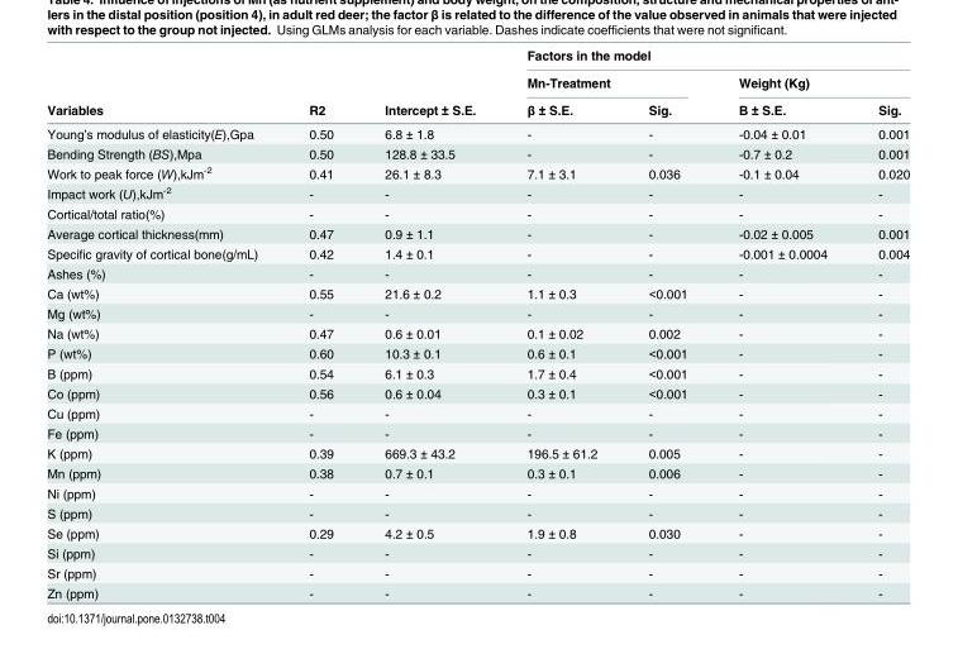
<table><thead><tr><td rowspan="3">Variables</td><td rowspan="3">R2</td><td rowspan="3">Intercept ± S.E.</td><td colspan="4">Factors in the model</td></tr><tr><td colspan="2">Mn-Treatment</td><td colspan="2">Weight (Kg)</td></tr><tr><td>β ± S.E.</td><td>Sig.</td><td>Β ± S.E.</td><td>Sig.</td></tr></thead><tbody><tr><td>Young’s modulus of elasticity(E),Gpa</td><td>0.50</td><td>6.8 ± 1.8</td><td>-</td><td>-</td><td>-0.04 ± 0.01</td><td>0.001</td></tr><tr><td>Bending Strength (BS),Mpa</td><td>0.50</td><td>128.8 ± 33.5</td><td>-</td><td>-</td><td>-0.7 ± 0.2</td><td>0.001</td></tr><tr><td>Work to peak force (W),kJm<sup>-2</sup></td><td>0.41</td><td>26.1 ± 8.3</td><td>7.1 ± 3.1</td><td>0.036</td><td>-0.1 ± 0.04</td><td>0.020</td></tr><tr><td>Impact work (U),kJm<sup>-2</sup></td><td>-</td><td>-</td><td>-</td><td>-</td><td>-</td><td>-</td></tr><tr><td>Cortical/total ratio(%)</td><td>-</td><td>-</td><td>-</td><td>-</td><td>-</td><td>-</td></tr><tr><td>Average cortical thickness(mm)</td><td>0.47</td><td>0.9 ± 1.1</td><td>-</td><td>-</td><td>-0.02 ± 0.005</td><td>0.001</td></tr><tr><td>Specific gravity of cortical bone(g/mL)</td><td>0.42</td><td>1.4 ± 0.1</td><td>-</td><td>-</td><td>-0.001 ± 0.0004</td><td>0.004</td></tr><tr><td>Ashes (%)</td><td>-</td><td>-</td><td>-</td><td>-</td><td>-</td><td>-</td></tr><tr><td>Ca (wt%)</td><td>0.55</td><td>21.6 ± 0.2</td><td>1.1 ± 0.3</td><td>&lt;0.001</td><td>-</td><td>-</td></tr><tr><td>Mg (wt%)</td><td>-</td><td>-</td><td>-</td><td>-</td><td>-</td><td>-</td></tr><tr><td>Na (wt%)</td><td>0.47</td><td>0.6 ± 0.01</td><td>0.1 ± 0.02</td><td>0.002</td><td>-</td><td>-</td></tr><tr><td>P (wt%)</td><td>0.60</td><td>10.3 ± 0.1</td><td>0.6 ± 0.1</td><td>&lt;0.001</td><td>-</td><td>-</td></tr><tr><td>B (ppm)</td><td>0.54</td><td>6.1 ± 0.3</td><td>1.7 ± 0.4</td><td>&lt;0.001</td><td>-</td><td>-</td></tr><tr><td>Co (ppm)</td><td>0.56</td><td>0.6 ± 0.04</td><td>0.3 ± 0.1</td><td>&lt;0.001</td><td>-</td><td>-</td></tr><tr><td>Cu (ppm)</td><td>-</td><td>-</td><td>-</td><td>-</td><td>-</td><td>-</td></tr><tr><td>Fe (ppm)</td><td>-</td><td>-</td><td>-</td><td>-</td><td>-</td><td>-</td></tr><tr><td>K (ppm)</td><td>0.39</td><td>669.3 ± 43.2</td><td>196.5 ± 61.2</td><td>0.005</td><td>-</td><td>-</td></tr><tr><td>Mn (ppm)</td><td>0.38</td><td>0.7 ± 0.1</td><td>0.3 ± 0.1</td><td>0.006</td><td>-</td><td>-</td></tr><tr><td>Ni (ppm)</td><td>-</td><td>-</td><td>-</td><td>-</td><td>-</td><td>-</td></tr><tr><td>S (ppm)</td><td>-</td><td>-</td><td>-</td><td>-</td><td>-</td><td>-</td></tr><tr><td>Se (ppm)</td><td>0.29</td><td>4.2 ± 0.5</td><td>1.9 ± 0.8</td><td>0.030</td><td>-</td><td>-</td></tr><tr><td>Si (ppm)</td><td>-</td><td>-</td><td>-</td><td>-</td><td>-</td><td>-</td></tr><tr><td>Sr (ppm)</td><td>-</td><td>-</td><td>-</td><td>-</td><td>-</td><td>-</td></tr><tr><td>Zn (ppm)</td><td>-</td><td>-</td><td>-</td><td>-</td><td>-</td><td>-</td></tr></tbody></table>